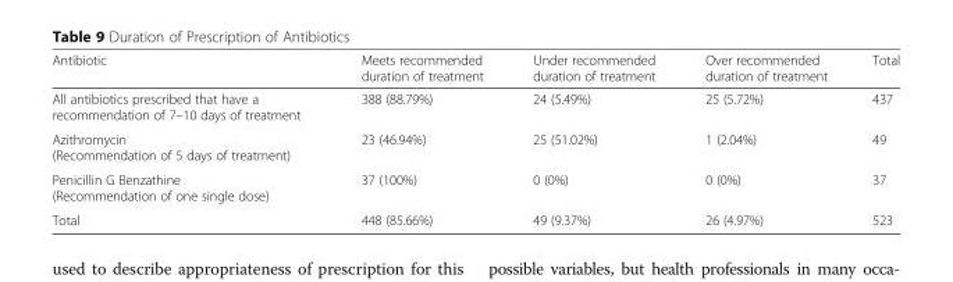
<table><thead><tr><td>Antibiotic</td><td>Meets recommended duration of treatment</td><td>Under recommended duration of treatment</td><td>Over recommended duration of treatment</td><td>Total</td></tr></thead><tbody><tr><td>All antibiotics prescribed that have a recommendation of 7–10 days of treatment</td><td>388 (88.79%)</td><td>24 (5.49%)</td><td>25 (5.72%)</td><td>437</td></tr><tr><td>Azithromycin (Recommendation of 5 days of treatment)</td><td>23 (46.94%)</td><td>25 (51.02%)</td><td>1 (2.04%)</td><td>49</td></tr><tr><td>Penicillin G Benzathine (Recommendation of one single dose)</td><td>37 (100%)</td><td>0 (0%)</td><td>0 (0%)</td><td>37</td></tr><tr><td>Total</td><td>448 (85.66%)</td><td>49 (9.37%)</td><td>26 (4.97%)</td><td>523</td></tr></tbody></table>